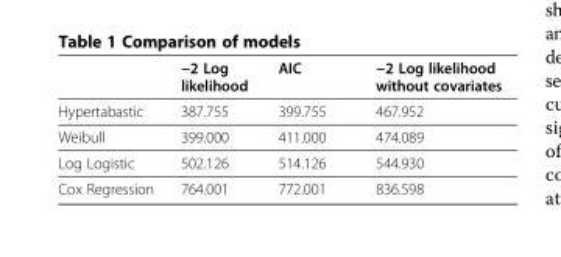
<table><thead><tr><td></td><td>−2 Log likelihood</td><td>AIC</td><td>−2 Log likelihood without covariates</td></tr></thead><tbody><tr><td>Hypertabastic</td><td>387.755</td><td>399.755</td><td>467.952</td></tr><tr><td>Weibull</td><td>399.000</td><td>411.000</td><td>474.089</td></tr><tr><td>Log Logistic</td><td>502.126</td><td>514.126</td><td>544.930</td></tr><tr><td>Cox Regression</td><td>764.001</td><td>772.001</td><td>836.598</td></tr></tbody></table>